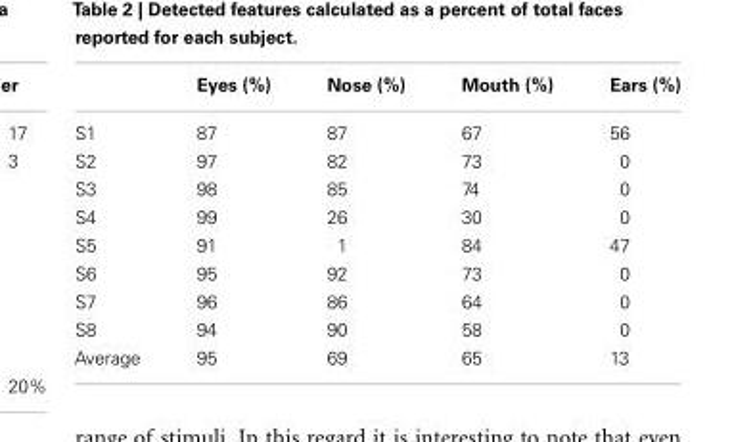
<table><thead><tr><td></td><td>Eyes (%)</td><td>Nose (%)</td><td>Mouth (%)</td><td>Ears (%)</td></tr></thead><tbody><tr><td>S1</td><td>87</td><td>87</td><td>67</td><td>56</td></tr><tr><td>S2</td><td>97</td><td>82</td><td>73</td><td>0</td></tr><tr><td>S3</td><td>98</td><td>85</td><td>74</td><td>0</td></tr><tr><td>S4</td><td>99</td><td>26</td><td>30</td><td>0</td></tr><tr><td>S5</td><td>91</td><td>1</td><td>84</td><td>47</td></tr><tr><td>S6</td><td>95</td><td>92</td><td>73</td><td>0</td></tr><tr><td>S7</td><td>96</td><td>86</td><td>64</td><td>0</td></tr><tr><td>S8</td><td>94</td><td>90</td><td>58</td><td>0</td></tr><tr><td>Average</td><td>95</td><td>69</td><td>65</td><td>13</td></tr></tbody></table>